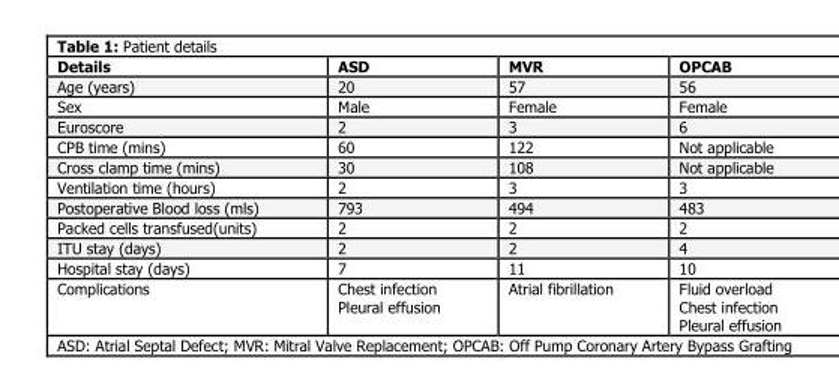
<table><thead><tr><td>Details</td><td>ASD</td><td>MVR</td><td>OPCAB</td></tr></thead><tbody><tr><td>Age (years)</td><td>20</td><td>57</td><td>56</td></tr><tr><td>Sex</td><td>Male</td><td>Female</td><td>Female</td></tr><tr><td>Euroscore</td><td>2</td><td>3</td><td>6</td></tr><tr><td>CPB time (mins)</td><td>60</td><td>122</td><td>Not applicable</td></tr><tr><td>Cross clamp time (mins)</td><td>30</td><td>108</td><td>Not applicable</td></tr><tr><td>Ventilation time (hours)</td><td>2</td><td>3</td><td>3</td></tr><tr><td>Postoperative Blood loss (mls)</td><td>793</td><td>494</td><td>483</td></tr><tr><td>Packed cells transfused(units)</td><td>2</td><td>2</td><td>2</td></tr><tr><td>ITU stay (days)</td><td>2</td><td>2</td><td>4</td></tr><tr><td>Hospital stay (days)</td><td>7</td><td>11</td><td>10</td></tr><tr><td>Complications</td><td>Chest infection Pleural effusion</td><td>Atrial fibrillation</td><td>Fluid overload Chest infection Pleural effusion</td></tr></tbody></table>